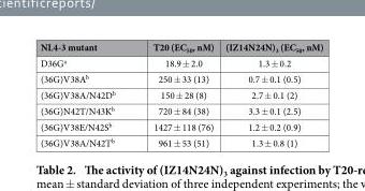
<table><thead><tr><td>NL4-3 mutant</td><td>T20 (EC<sub>50</sub>, nM)</td><td>(IZ14N24N)<sub>3</sub> (EC<sub>50</sub>, nM)</td></tr></thead><tbody><tr><td>D36G<sup>a</sup></td><td>18.9 ± 2.0</td><td>1.3 ± 0.2</td></tr><tr><td>(36G)V38A<sup>b</sup></td><td>250 ± 33 (13)</td><td>0.7 ± 0.1 (0.5)</td></tr><tr><td>(36G)V38A/N42D<sup>b</sup></td><td>150 ± 28 (8)</td><td>2.7 ± 0.1 (2)</td></tr><tr><td>(36G)N42T/N43K<sup>b</sup></td><td>720 ± 84 (38)</td><td>3.3 ± 0.1 (2.5)</td></tr><tr><td>(36G)V38E/N42S<sup>b</sup></td><td>1427 ± 118 (76)</td><td>1.2 ± 0.2 (0.9)</td></tr><tr><td>(36G)V38A/N42T<sup>b</sup></td><td>961 ± 53 (51)</td><td>1.3 ± 0.8 (1)</td></tr></tbody></table>